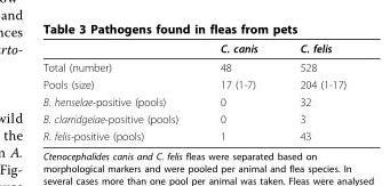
<table><thead><tr><td></td><td>C. canis</td><td>C. felis</td></tr></thead><tbody><tr><td>Total (number)</td><td>48</td><td>528</td></tr><tr><td>Pools (size)</td><td>17 (1-7)</td><td>204 (1-17)</td></tr><tr><td>B. henselae-positive (pools)</td><td>0</td><td>32</td></tr><tr><td>B. clarridgeiae-positive (pools)</td><td>0</td><td>3</td></tr><tr><td>R. felis-positive (pools)</td><td>1</td><td>43</td></tr></tbody></table>